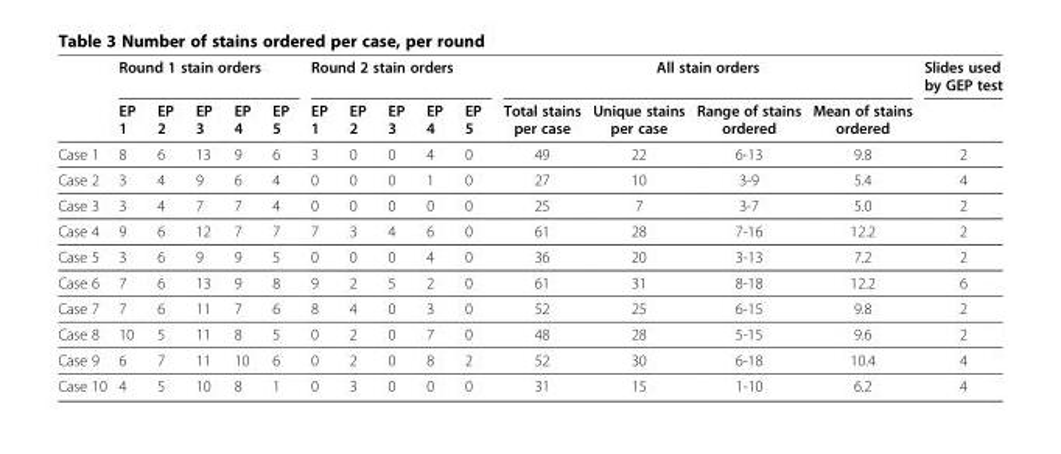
<table><thead><tr><td rowspan="2"></td><td colspan="5">Round 1 stain orders</td><td colspan="5">Round 2 stain orders</td><td colspan="4">All stain orders</td><td rowspan="2">Slides used by GEP test</td></tr><tr><td>EP 1</td><td>EP 2</td><td>EP 3</td><td>EP 4</td><td>EP 5</td><td>EP 1</td><td>EP 2</td><td>EP 3</td><td>EP 4</td><td>EP 5</td><td>Total stains per case</td><td>Unique stains per case</td><td>Range of stains ordered</td><td>Mean of stains ordered</td></tr></thead><tbody><tr><td>Case 1</td><td>8</td><td>6</td><td>13</td><td>9</td><td>6</td><td>3</td><td>0</td><td>0</td><td>4</td><td>0</td><td>49</td><td>22</td><td>6-13</td><td>9.8</td><td>2</td></tr><tr><td>Case 2</td><td>3</td><td>4</td><td>9</td><td>6</td><td>4</td><td>0</td><td>0</td><td>0</td><td>1</td><td>0</td><td>27</td><td>10</td><td>3-9</td><td>5.4</td><td>4</td></tr><tr><td>Case 3</td><td>3</td><td>4</td><td>7</td><td>7</td><td>4</td><td>0</td><td>0</td><td>0</td><td>0</td><td>0</td><td>25</td><td>7</td><td>3-7</td><td>5.0</td><td>2</td></tr><tr><td>Case 4</td><td>9</td><td>6</td><td>12</td><td>7</td><td>7</td><td>7</td><td>3</td><td>4</td><td>6</td><td>0</td><td>61</td><td>28</td><td>7-16</td><td>12.2</td><td>2</td></tr><tr><td>Case 5</td><td>3</td><td>6</td><td>9</td><td>9</td><td>5</td><td>0</td><td>0</td><td>0</td><td>4</td><td>0</td><td>36</td><td>20</td><td>3-13</td><td>7.2</td><td>2</td></tr><tr><td>Case 6</td><td>7</td><td>6</td><td>13</td><td>9</td><td>8</td><td>9</td><td>2</td><td>5</td><td>2</td><td>0</td><td>61</td><td>31</td><td>8-18</td><td>12.2</td><td>6</td></tr><tr><td>Case 7</td><td>7</td><td>6</td><td>11</td><td>7</td><td>6</td><td>8</td><td>4</td><td>0</td><td>3</td><td>0</td><td>52</td><td>25</td><td>6-15</td><td>9.8</td><td>2</td></tr><tr><td>Case 8</td><td>10</td><td>5</td><td>11</td><td>8</td><td>5</td><td>0</td><td>2</td><td>0</td><td>7</td><td>0</td><td>48</td><td>28</td><td>5-15</td><td>9.6</td><td>2</td></tr><tr><td>Case 9</td><td>6</td><td>7</td><td>11</td><td>10</td><td>6</td><td>0</td><td>2</td><td>0</td><td>8</td><td>2</td><td>52</td><td>30</td><td>6-18</td><td>10.4</td><td>4</td></tr><tr><td>Case 10</td><td>4</td><td>5</td><td>10</td><td>8</td><td>1</td><td>0</td><td>3</td><td>0</td><td>0</td><td>0</td><td>31</td><td>15</td><td>1-10</td><td>6.2</td><td>4</td></tr></tbody></table>